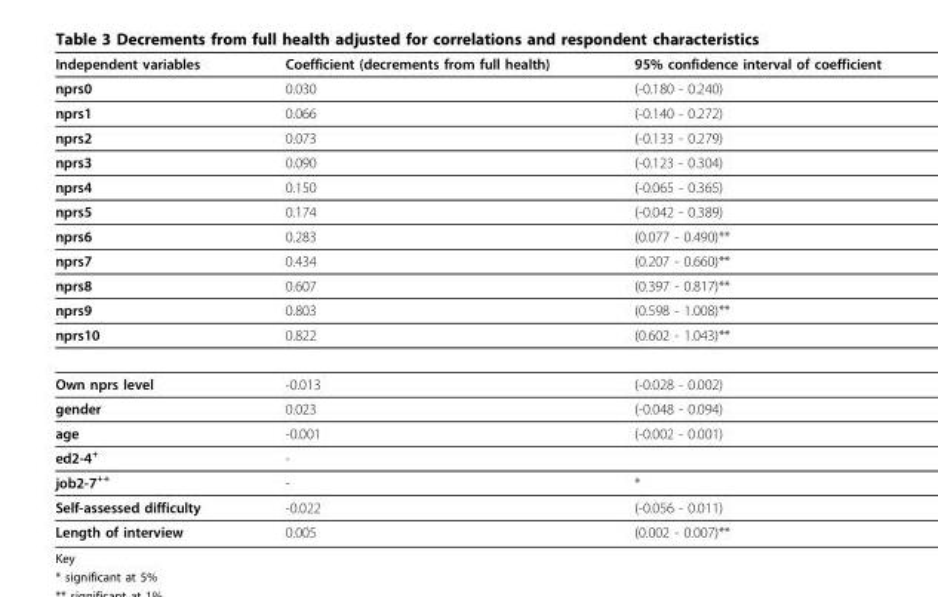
<table><thead><tr><td>Independent variables</td><td>Coefficient (decrements from full health)</td><td>95% confidence interval of coefficient</td></tr></thead><tbody><tr><td>nprs0</td><td>0.030</td><td>(-0.180 - 0.240)</td></tr><tr><td>nprs1</td><td>0.066</td><td>(-0.140 - 0.272)</td></tr><tr><td>nprs2</td><td>0.073</td><td>(-0.133 - 0.279)</td></tr><tr><td>nprs3</td><td>0.090</td><td>(-0.123 - 0.304)</td></tr><tr><td>nprs4</td><td>0.150</td><td>(-0.065 - 0.365)</td></tr><tr><td>nprs5</td><td>0.174</td><td>(-0.042 - 0.389)</td></tr><tr><td>nprs6</td><td>0.283</td><td>(0.077 - 0.490)**</td></tr><tr><td>nprs7</td><td>0.434</td><td>(0.207 - 0.660)**</td></tr><tr><td>nprs8</td><td>0.607</td><td>(0.397 - 0.817)**</td></tr><tr><td>nprs9</td><td>0.803</td><td>(0.598 - 1.008)**</td></tr><tr><td>nprs10</td><td>0.822</td><td>(0.602 - 1.043)**</td></tr><tr><td>Own nprs level</td><td>-0.013</td><td>(-0.028 - 0.002)</td></tr><tr><td>gender</td><td>0.023</td><td>(-0.048 - 0.094)</td></tr><tr><td>age</td><td>-0.001</td><td>(-0.002 - 0.001)</td></tr><tr><td>ed2-4+</td><td>-</td><td></td></tr><tr><td>job2-7++</td><td>-</td><td>*</td></tr><tr><td>Self-assessed difficulty</td><td>-0.022</td><td>(-0.056 - 0.011)</td></tr><tr><td>Length of interview</td><td>0.005</td><td>(0.002 - 0.007)**</td></tr></tbody></table>